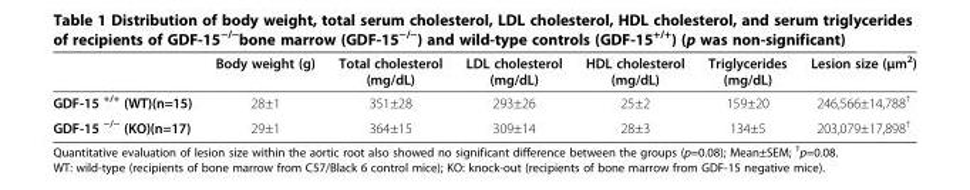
<table><thead><tr><td></td><td>Body weight (g)</td><td>Total cholesterol (mg/dL)</td><td>LDL cholesterol (mg/dL)</td><td>HDL cholesterol (mg/dL)</td><td>Triglycerides (mg/dL)</td><td>Lesion size (μm<sup>2</sup>)</td></tr></thead><tbody><tr><td>GDF-15 <sup>+/+</sup> (WT)(n=15)</td><td>28±1</td><td>351±28</td><td>293±26</td><td>25±2</td><td>159±20</td><td>246,566±14,788<sup>†</sup></td></tr><tr><td>GDF-15 <sup>−/−</sup> (KO)(n=17)</td><td>29±1</td><td>364±15</td><td>309±14</td><td>28±3</td><td>134±5</td><td>203,079±17,898<sup>†</sup></td></tr></tbody></table>